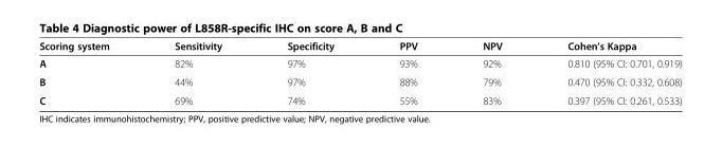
<table><thead><tr><td>Scoring system</td><td>Sensitivity</td><td>Specificity</td><td>PPV</td><td>NPV</td><td>Cohen’s Kappa</td></tr></thead><tbody><tr><td>A</td><td>82%</td><td>97%</td><td>93%</td><td>92%</td><td>0.810 (95% CI: 0.701, 0.919)</td></tr><tr><td>B</td><td>44%</td><td>97%</td><td>88%</td><td>79%</td><td>0.470 (95% CI: 0.332, 0.608)</td></tr><tr><td>C</td><td>69%</td><td>74%</td><td>55%</td><td>83%</td><td>0.397 (95% CI: 0.261, 0.533)</td></tr></tbody></table>